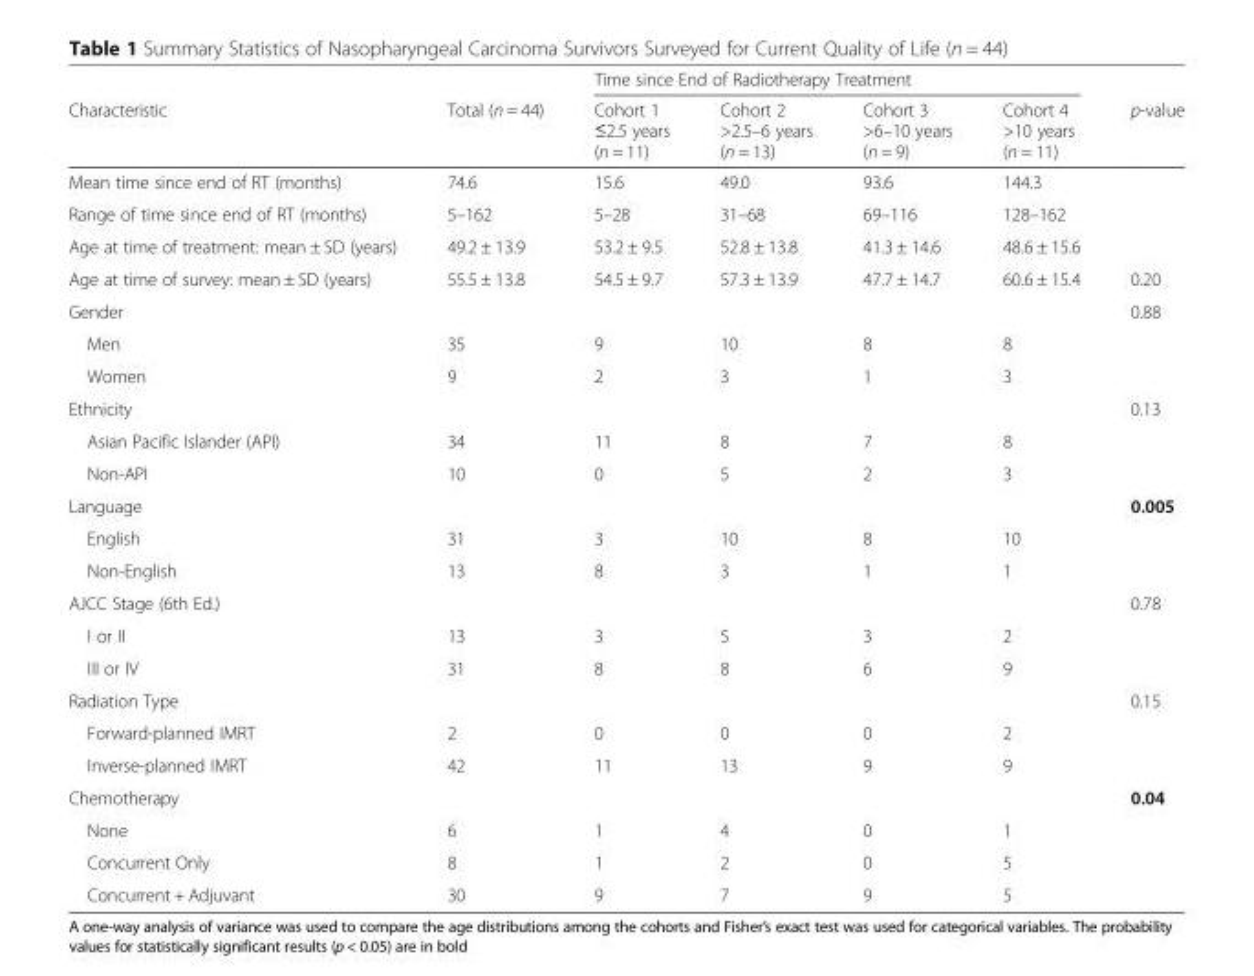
<table><thead><tr><td rowspan="2">Characteristic</td><td rowspan="2">Total (n = 44)</td><td colspan="4">Time since End of Radiotherapy Treatment</td><td rowspan="2">p-value</td></tr><tr><td>Cohort 1 ≤2.5 years (n = 11)</td><td>Cohort 2 &gt;2.5–6 years (n = 13)</td><td>Cohort 3 &gt;6–10 years (n = 9)</td><td>Cohort 4 &gt;10 years (n = 11)</td></tr></thead><tbody><tr><td>Mean time since end of RT (months)</td><td>74.6</td><td>15.6</td><td>49.0</td><td>93.6</td><td>144.3</td><td></td></tr><tr><td>Range of time since end of RT (months)</td><td>5–162</td><td>5–28</td><td>31–68</td><td>69–116</td><td>128–162</td><td></td></tr><tr><td>Age at time of treatment: mean ± SD (years)</td><td>49.2 ± 13.9</td><td>53.2 ± 9.5</td><td>52.8 ± 13.8</td><td>41.3 ± 14.6</td><td>48.6 ± 15.6</td><td></td></tr><tr><td>Age at time of survey: mean ± SD (years)</td><td>55.5 ± 13.8</td><td>54.5 ± 9.7</td><td>57.3 ± 13.9</td><td>47.7 ± 14.7</td><td>60.6 ± 15.4</td><td>0.20</td></tr><tr><td>Gender</td><td></td><td></td><td></td><td></td><td></td><td>0.88</td></tr><tr><td>Men</td><td>35</td><td>9</td><td>10</td><td>8</td><td>8</td><td></td></tr><tr><td>Women</td><td>9</td><td>2</td><td>3</td><td>1</td><td>3</td><td></td></tr><tr><td>Ethnicity</td><td></td><td></td><td></td><td></td><td></td><td>0.13</td></tr><tr><td>Asian Pacific Islander (API)</td><td>34</td><td>11</td><td>8</td><td>7</td><td>8</td><td></td></tr><tr><td>Non-API</td><td>10</td><td>0</td><td>5</td><td>2</td><td>3</td><td></td></tr><tr><td>Language</td><td></td><td></td><td></td><td></td><td></td><td>0.005</td></tr><tr><td>English</td><td>31</td><td>3</td><td>10</td><td>8</td><td>10</td><td></td></tr><tr><td>Non-English</td><td>13</td><td>8</td><td>3</td><td>1</td><td>1</td><td></td></tr><tr><td>AJCC Stage (6th Ed.)</td><td></td><td></td><td></td><td></td><td></td><td>0.78</td></tr><tr><td>I or II</td><td>13</td><td>3</td><td>5</td><td>3</td><td>2</td><td></td></tr><tr><td>III or IV</td><td>31</td><td>8</td><td>8</td><td>6</td><td>9</td><td></td></tr><tr><td>Radiation Type</td><td></td><td></td><td></td><td></td><td></td><td>0.15</td></tr><tr><td>Forward-planned IMRT</td><td>2</td><td>0</td><td>0</td><td>0</td><td>2</td><td></td></tr><tr><td>Inverse-planned IMRT</td><td>42</td><td>11</td><td>13</td><td>9</td><td>9</td><td></td></tr><tr><td>Chemotherapy</td><td></td><td></td><td></td><td></td><td></td><td>0.04</td></tr><tr><td>None</td><td>6</td><td>1</td><td>4</td><td>0</td><td>1</td><td></td></tr><tr><td>Concurrent Only</td><td>8</td><td>1</td><td>2</td><td>0</td><td>5</td><td></td></tr><tr><td>Concurrent + Adjuvant</td><td>30</td><td>9</td><td>7</td><td>9</td><td>5</td><td></td></tr></tbody></table>